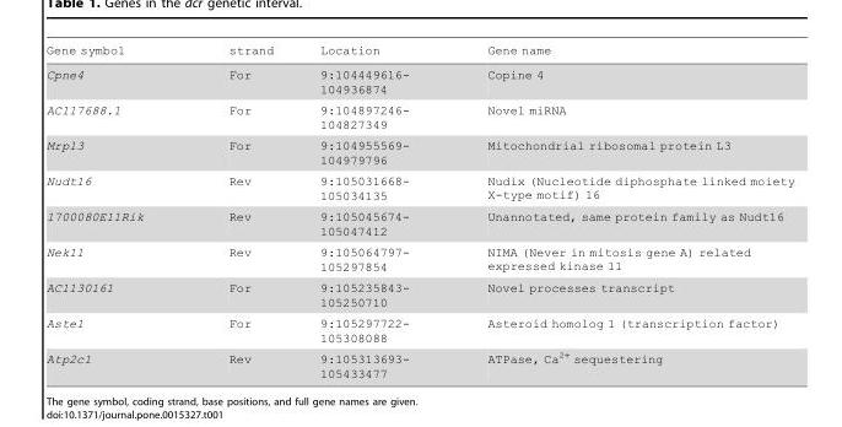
<table><thead><tr><td>Gene symbol</td><td>strand</td><td>Location</td><td>Gene name</td></tr></thead><tbody><tr><td>Cpne4</td><td>For</td><td>9:104449616- 104936874</td><td>Copine 4</td></tr><tr><td>AC117688.1</td><td>For</td><td>9:104897246- 104827349</td><td>Novel miRNA</td></tr><tr><td>Mrpl3</td><td>For</td><td>9:104955569- 104979796</td><td>Mitochondrial ribosomal protein L3</td></tr><tr><td>Nudt16</td><td>Rev</td><td>9:105031668- 105034135</td><td>Nudix (Nucleotide diphosphate linked moiety X-type motif) 16</td></tr><tr><td>1700080E11Rik</td><td>Rev</td><td>9:105045674- 105047412</td><td>Unannotated, same protein family as Nudt16</td></tr><tr><td>Nek11</td><td>Rev</td><td>9:105064797- 105297854</td><td>NIMA (Never in mitosis gene A) related expressed kinase 11</td></tr><tr><td>AC1130161</td><td>For</td><td>9:105235843- 105250710</td><td>Novel processes transcript</td></tr><tr><td>Aste1</td><td>For</td><td>9:105297722- 105308088</td><td>Asteroid homolog 1 (transcription factor)</td></tr><tr><td>Atp2c1</td><td>Rev</td><td>9:105313693- 105433477</td><td>ATPase, Ca<sup>2+</sup> sequestering</td></tr></tbody></table>